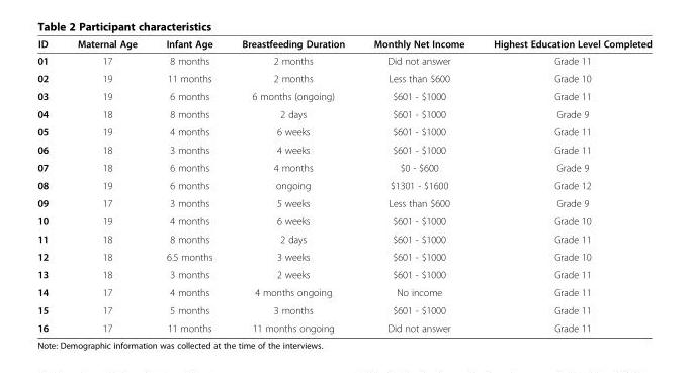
<table><thead><tr><td>ID</td><td>Maternal Age</td><td>Infant Age</td><td>Breastfeeding Duration</td><td>Monthly Net Income</td><td>Highest Education Level Completed</td></tr></thead><tbody><tr><td>01</td><td>17</td><td>8 months</td><td>2 months</td><td>Did not answer</td><td>Grade 11</td></tr><tr><td>02</td><td>19</td><td>11 months</td><td>2 months</td><td>Less than $600</td><td>Grade 10</td></tr><tr><td>03</td><td>19</td><td>6 months</td><td>6 months (ongoing)</td><td>$601 - $1000</td><td>Grade 11</td></tr><tr><td>04</td><td>18</td><td>8 months</td><td>2 days</td><td>$601 - $1000</td><td>Grade 9</td></tr><tr><td>05</td><td>19</td><td>4 months</td><td>6 weeks</td><td>$601 - $1000</td><td>Grade 11</td></tr><tr><td>06</td><td>18</td><td>3 months</td><td>4 weeks</td><td>$601 - $1000</td><td>Grade 11</td></tr><tr><td>07</td><td>18</td><td>6 months</td><td>4 months</td><td>$0 - $600</td><td>Grade 9</td></tr><tr><td>08</td><td>19</td><td>6 months</td><td>ongoing</td><td>$1301 - $1600</td><td>Grade 12</td></tr><tr><td>09</td><td>17</td><td>3 months</td><td>5 weeks</td><td>Less than $600</td><td>Grade 9</td></tr><tr><td>10</td><td>19</td><td>4 months</td><td>6 weeks</td><td>$601 - $1000</td><td>Grade 10</td></tr><tr><td>11</td><td>18</td><td>8 months</td><td>2 days</td><td>$601 - $1000</td><td>Grade 11</td></tr><tr><td>12</td><td>18</td><td>6.5 months</td><td>3 weeks</td><td>$601 - $1000</td><td>Grade 10</td></tr><tr><td>13</td><td>18</td><td>3 months</td><td>2 weeks</td><td>$601 - $1000</td><td>Grade 11</td></tr><tr><td>14</td><td>17</td><td>4 months</td><td>4 months ongoing</td><td>No income</td><td>Grade 11</td></tr><tr><td>15</td><td>17</td><td>5 months</td><td>3 months</td><td>$601 - $1000</td><td>Grade 11</td></tr><tr><td>16</td><td>17</td><td>11 months</td><td>11 months ongoing</td><td>Did not answer</td><td>Grade 11</td></tr></tbody></table>